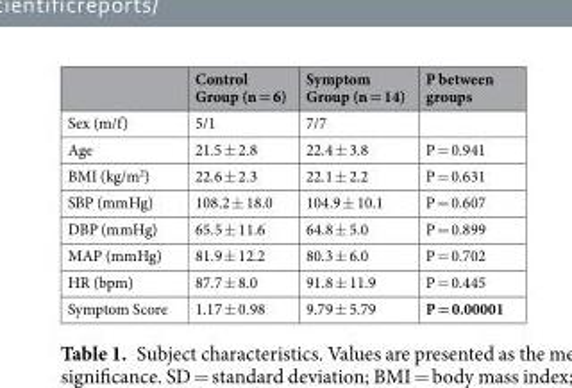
<table><thead><tr><td></td><td>Control Group (n = 6)</td><td>Symptom Group (n = 14)</td><td>P between groups</td></tr></thead><tbody><tr><td>Sex (m/f)</td><td>5/1</td><td>7/7</td><td></td></tr><tr><td>Age</td><td>21.5 ± 2.8</td><td>22.4 ± 3.8</td><td>P = 0.941</td></tr><tr><td>BMI (kg/m<sup>2</sup>)</td><td>22.6 ± 2.3</td><td>22.1 ± 2.2</td><td>P = 0.631</td></tr><tr><td>SBP (mmHg)</td><td>108.2 ± 18.0</td><td>104.9 ± 10.1</td><td>P = 0.607</td></tr><tr><td>DBP (mmHg)</td><td>65.5 ± 11.6</td><td>64.8 ± 5.0</td><td>P = 0.899</td></tr><tr><td>MAP (mmHg)</td><td>81.9 ± 12.2</td><td>80.3 ± 6.0</td><td>P = 0.702</td></tr><tr><td>HR (bpm)</td><td>87.7 ± 8.0</td><td>91.8 ± 11.9</td><td>P = 0.445</td></tr><tr><td>Symptom Score</td><td>1.17 ± 0.98</td><td>9.79 ± 5.79</td><td>P = 0.00001</td></tr></tbody></table>